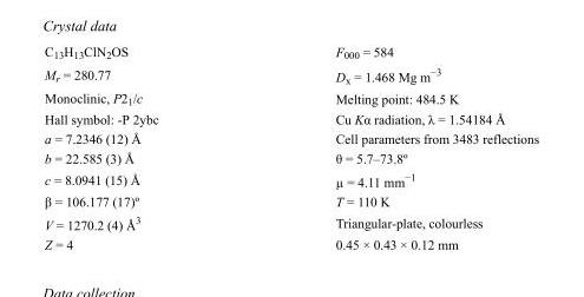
<table><tbody><tr><td>C<sub>13</sub>H<sub>13</sub>ClN<sub>2</sub>OS</td><td>F000 = 584</td></tr><tr><td>M<sub>r</sub> = 280.77</td><td>D<sub>x</sub> = 1.468 Mg m<sup>−3</sup></td></tr><tr><td>Monoclinic, P2<sub>1</sub>/c</td><td>Melting point: 484.5 K</td></tr><tr><td>Hall symbol: -P 2ybc</td><td>Cu Kα radiation, λ = 1.54184 Å</td></tr><tr><td>a = 7.2346 (12) Å</td><td>Cell parameters from 3483 reflections</td></tr><tr><td>b = 22.585 (3) Å</td><td>θ = 5.7–73.8º</td></tr><tr><td>c = 8.0941 (15) Å</td><td>µ = 4.11 mm<sup>−1</sup></td></tr><tr><td>β = 106.177 (17)º</td><td>T = 110 K</td></tr><tr><td>V = 1270.2 (4) Å<sup>3</sup></td><td>Triangular-plate, colourless</td></tr><tr><td>Z = 4</td><td>0.45 × 0.43 × 0.12 mm</td></tr></tbody></table>